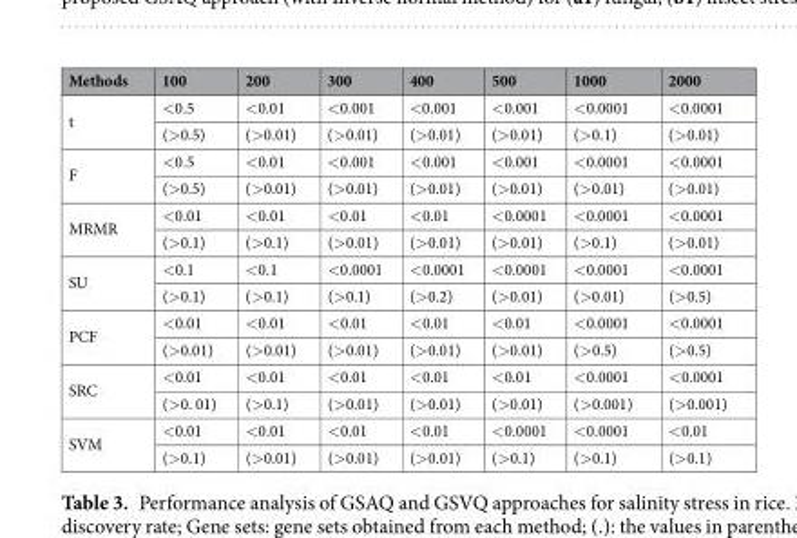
<table><thead><tr><td>Methods</td><td>100</td><td>200</td><td>300</td><td>400</td><td>500</td><td>1000</td><td>2000</td></tr></thead><tbody><tr><td rowspan="2">t</td><td>&lt;0.5</td><td>&lt;0.01</td><td>&lt;0.001</td><td>&lt;0.001</td><td>&lt;0.001</td><td>&lt;0.0001</td><td>&lt;0.0001</td></tr><tr><td>(&gt;0.5)</td><td>(&gt;0.01)</td><td>(&gt;0.01)</td><td>(&gt;0.01)</td><td>(&gt;0.01)</td><td>(&gt;0.1)</td><td>(&gt;0.01)</td></tr><tr><td rowspan="2">F</td><td>&lt;0.5</td><td>&lt;0.01</td><td>&lt;0.001</td><td>&lt;0.001</td><td>&lt;0.001</td><td>&lt;0.0001</td><td>&lt;0.0001</td></tr><tr><td>(&gt;0.5)</td><td>(&gt;0.01)</td><td>(&gt;0.01)</td><td>(&gt;0.01)</td><td>(&gt;0.01)</td><td>(&gt;0.01)</td><td>(&gt;0.01)</td></tr><tr><td rowspan="2">MRMR</td><td>&lt;0.01</td><td>&lt;0.01</td><td>&lt;0.01</td><td>&lt;0.01</td><td>&lt;0.0001</td><td>&lt;0.0001</td><td>&lt;0.0001</td></tr><tr><td>(&gt;0.1)</td><td>(&gt;0.1)</td><td>(&gt;0.01)</td><td>(&gt;0.01)</td><td>(&gt;0.01)</td><td>(&gt;0.1)</td><td>(&gt;0.01)</td></tr><tr><td rowspan="2">SU</td><td>&lt;0.1</td><td>&lt;0.1</td><td>&lt;0.0001</td><td>&lt;0.0001</td><td>&lt;0.0001</td><td>&lt;0.0001</td><td>&lt;0.0001</td></tr><tr><td>(&gt;0.1)</td><td>(&gt;0.1)</td><td>(&gt;0.1)</td><td>(&gt;0.2)</td><td>(&gt;0.01)</td><td>(&gt;0.01)</td><td>(&gt;0.5)</td></tr><tr><td rowspan="2">PCF</td><td>&lt;0.01</td><td>&lt;0.01</td><td>&lt;0.01</td><td>&lt;0.01</td><td>&lt;0.01</td><td>&lt;0.0001</td><td>&lt;0.0001</td></tr><tr><td>(&gt;0.01)</td><td>(&gt;0.01)</td><td>(&gt;0.01)</td><td>(&gt;0.01)</td><td>(&gt;0.01)</td><td>(&gt;0.5)</td><td>(&gt;0.5)</td></tr><tr><td rowspan="2">SRC</td><td>&lt;0.01</td><td>&lt;0.01</td><td>&lt;0.01</td><td>&lt;0.01</td><td>&lt;0.01</td><td>&lt;0.0001</td><td>&lt;0.0001</td></tr><tr><td>(&gt;0. 01)</td><td>(&gt;0.1)</td><td>(&gt;0.01)</td><td>(&gt;0.01)</td><td>(&gt;0.01)</td><td>(&gt;0.001)</td><td>(&gt;0.001)</td></tr><tr><td rowspan="2">SVM</td><td>&lt;0.01</td><td>&lt;0.01</td><td>&lt;0.01</td><td>&lt;0.01</td><td>&lt;0.0001</td><td>&lt;0.0001</td><td>&lt;0.01</td></tr><tr><td>(&gt;0.1)</td><td>(&gt;0.01)</td><td>(&gt;0.01)</td><td>(&gt;0.01)</td><td>(&gt;0.1)</td><td>(&gt;0.1)</td><td>(&gt;0.1)</td></tr></tbody></table>